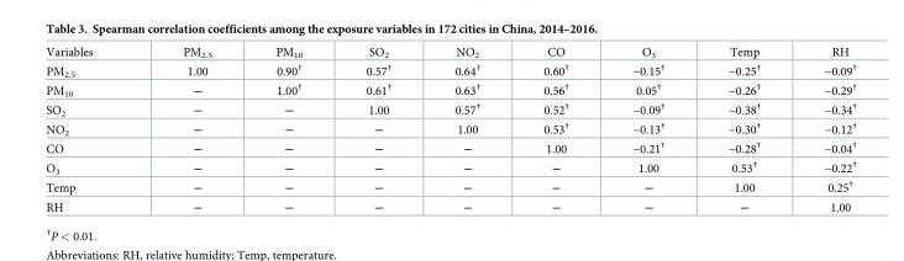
<table><tbody><tr><td>Variables</td><td>PM<sub>2.5</sub></td><td>PM<sub>10</sub></td><td>SO<sub>2</sub></td><td>NO<sub>2</sub></td><td>CO</td><td>O<sub>3</sub></td><td>Temp</td><td>RH</td></tr><tr><td>PM<sub>2.5</sub></td><td>1.00</td><td>0.90<sup>†</sup></td><td>0.57<sup>†</sup></td><td>0.64<sup>†</sup></td><td>0.60<sup>†</sup></td><td>−0.15<sup>†</sup></td><td>−0.25<sup>†</sup></td><td>−0.09<sup>†</sup></td></tr><tr><td>PM<sub>10</sub></td><td>―</td><td>1.00<sup>†</sup></td><td>0.61<sup>†</sup></td><td>0.63<sup>†</sup></td><td>0.56<sup>†</sup></td><td>0.05<sup>†</sup></td><td>−0.26<sup>†</sup></td><td>−0.29<sup>†</sup></td></tr><tr><td>SO<sub>2</sub></td><td>―</td><td>―</td><td>1.00</td><td>0.57<sup>†</sup></td><td>0.52<sup>†</sup></td><td>−0.09<sup>†</sup></td><td>−0.38<sup>†</sup></td><td>−0.34<sup>†</sup></td></tr><tr><td>NO<sub>2</sub></td><td>―</td><td>―</td><td>―</td><td>1.00</td><td>0.53<sup>†</sup></td><td>−0.13<sup>†</sup></td><td>−0.30<sup>†</sup></td><td>−0.12<sup>†</sup></td></tr><tr><td>CO</td><td>―</td><td>―</td><td>―</td><td>―</td><td>1.00</td><td>−0.21<sup>†</sup></td><td>−0.28<sup>†</sup></td><td>−0.04<sup>†</sup></td></tr><tr><td>O<sub>3</sub></td><td>―</td><td>―</td><td>―</td><td>―</td><td>―</td><td>1.00</td><td>0.53<sup>†</sup></td><td>−0.22<sup>†</sup></td></tr><tr><td>Temp</td><td>―</td><td>―</td><td>―</td><td>―</td><td>―</td><td>―</td><td>1.00</td><td>0.25<sup>†</sup></td></tr><tr><td>RH</td><td>―</td><td>―</td><td>―</td><td>―</td><td>―</td><td>―</td><td>―</td><td>1.00</td></tr></tbody></table>